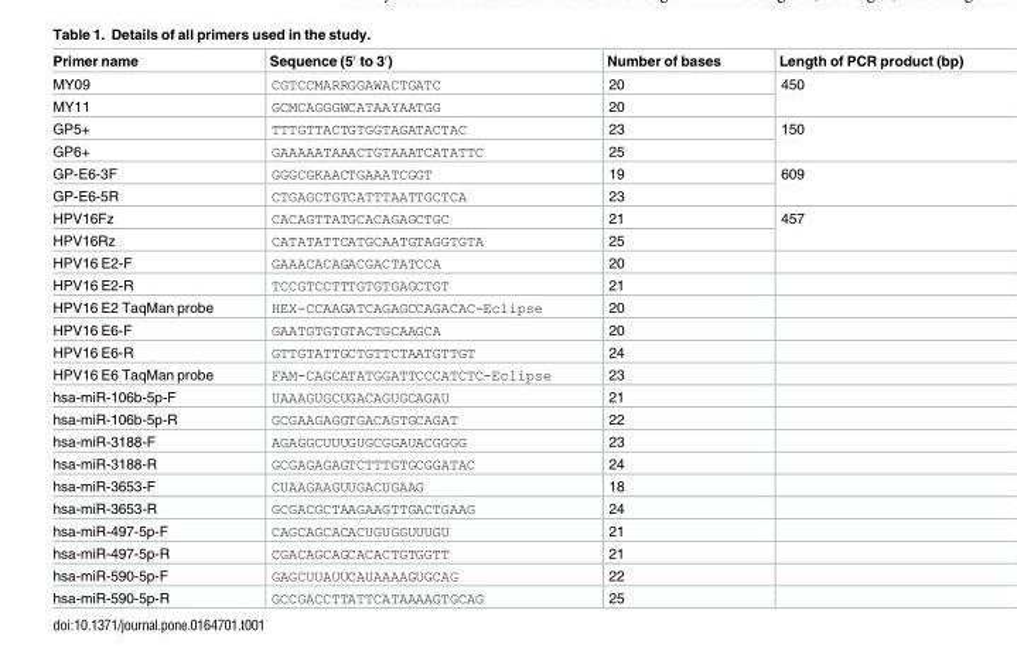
<table><thead><tr><td>Primer name</td><td>Sequence (5′ to 3′)</td><td>Number of bases</td><td>Length of PCR product (bp)</td></tr></thead><tbody><tr><td>MY09</td><td>CGTCCMARRGGAWACTGATC</td><td>20</td><td rowspan="2">450</td></tr><tr><td>MY11</td><td>GCMCAGGGWCATAAYAATGG</td><td>20</td></tr><tr><td>GP5+</td><td>TTTGTTACTGTGGTAGATACTAC</td><td>23</td><td rowspan="2">150</td></tr><tr><td>GP6+</td><td>GAAAAATAAACTGTAAATCATATTC</td><td>25</td></tr><tr><td>GP-E6-3F</td><td>GGGCGKAACTGAAATCGGT</td><td>19</td><td rowspan="2">609</td></tr><tr><td>GP-E6-5R</td><td>CTGAGCTGTCATTTAATTGCTCA</td><td>23</td></tr><tr><td>HPV16Fz</td><td>CACAGTTATGCACAGAGCTGC</td><td>21</td><td rowspan="2">457</td></tr><tr><td>HPV16Rz</td><td>CATATATTCATGCAATGTAGGTGTA</td><td>25</td></tr><tr><td>HPV16 E2-F</td><td>GAAACACAGACGACTATCCA</td><td>20</td><td></td></tr><tr><td>HPV16 E2-R</td><td>TCCGTCCTTTGTGTGAGCTGT</td><td>21</td><td></td></tr><tr><td>HPV16 E2 TaqMan probe</td><td>HEX-CCAAGATCAGAGCCAGACAC-Eclipse</td><td>20</td><td></td></tr><tr><td>HPV16 E6-F</td><td>GAATGTGTGTACTGCAAGCA</td><td>20</td><td></td></tr><tr><td>HPV16 E6-R</td><td>GTTGTATTGCTGTTCTAATGTTGT</td><td>24</td><td></td></tr><tr><td>HPV16 E6 TaqMan probe</td><td>FAM-CAGCATATGGATTCCCATCTC-Eclipse</td><td>23</td><td></td></tr><tr><td>hsa-miR-106b-5p-F</td><td>UAAAGUGCUGACAGUGCAGAU</td><td>21</td><td></td></tr><tr><td>hsa-miR-106b-5p-R</td><td>GCGAAGAGGTGACAGTGCAGAT</td><td>22</td><td></td></tr><tr><td>hsa-miR-3188-F</td><td>AGAGGCUUUGUGCGGAUACGGGG</td><td>23</td><td></td></tr><tr><td>hsa-miR-3188-R</td><td>GCGAGAGAGTCTTTGTGCGGATAC</td><td>24</td><td></td></tr><tr><td>hsa-miR-3653-F</td><td>CUAAGAAGUUGACUGAAG</td><td>18</td><td></td></tr><tr><td>hsa-miR-3653-R</td><td>GCGACGCTAAGAAGTTGACTGAAG</td><td>24</td><td></td></tr><tr><td>hsa-miR-497-5p-F</td><td>CAGCAGCACACUGUGGUUUGU</td><td>21</td><td></td></tr><tr><td>hsa-miR-497-5p-R</td><td>CGACAGCAGCACACTGTGGTT</td><td>21</td><td></td></tr><tr><td>hsa-miR-590-5p-F</td><td>GAGCUUAUUCAUAAAAGUGCAG</td><td>22</td><td></td></tr><tr><td>hsa-miR-590-5p-R</td><td>GCCGACCTTATTCATAAAAGTGCAG</td><td>25</td><td></td></tr></tbody></table>